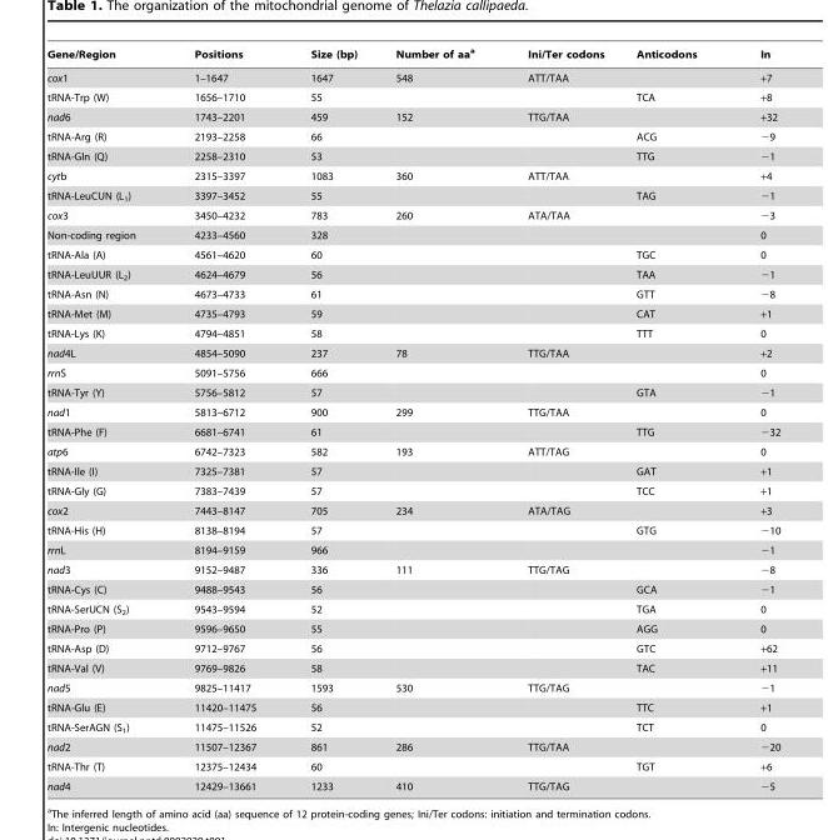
<table><thead><tr><td>Gene/Region</td><td>Positions</td><td>Size (bp)</td><td>Number of aa<sup>a</sup></td><td>Ini/Ter codons</td><td>Anticodons</td><td>In</td></tr></thead><tbody><tr><td>cox1</td><td>1–1647</td><td>1647</td><td>548</td><td>ATT/TAA</td><td></td><td>+7</td></tr><tr><td>tRNA-Trp (W)</td><td>1656–1710</td><td>55</td><td></td><td></td><td>TCA</td><td>+8</td></tr><tr><td>nad6</td><td>1743–2201</td><td>459</td><td>152</td><td>TTG/TAA</td><td></td><td>+32</td></tr><tr><td>tRNA-Arg (R)</td><td>2193–2258</td><td>66</td><td></td><td></td><td>ACG</td><td>−9</td></tr><tr><td>tRNA-Gln (Q)</td><td>2258–2310</td><td>53</td><td></td><td></td><td>TTG</td><td>−1</td></tr><tr><td>cytb</td><td>2315–3397</td><td>1083</td><td>360</td><td>ATT/TAA</td><td></td><td>+4</td></tr><tr><td>tRNA-LeuCUN (L<sub>1</sub>)</td><td>3397–3452</td><td>55</td><td></td><td></td><td>TAG</td><td>−1</td></tr><tr><td>cox3</td><td>3450–4232</td><td>783</td><td>260</td><td>ATA/TAA</td><td></td><td>−3</td></tr><tr><td>Non-coding region</td><td>4233–4560</td><td>328</td><td></td><td></td><td></td><td>0</td></tr><tr><td>tRNA-Ala (A)</td><td>4561–4620</td><td>60</td><td></td><td></td><td>TGC</td><td>0</td></tr><tr><td>tRNA-LeuUUR (L<sub>2</sub>)</td><td>4624–4679</td><td>56</td><td></td><td></td><td>TAA</td><td>−1</td></tr><tr><td>tRNA-Asn (N)</td><td>4673–4733</td><td>61</td><td></td><td></td><td>GTT</td><td>−8</td></tr><tr><td>tRNA-Met (M)</td><td>4735–4793</td><td>59</td><td></td><td></td><td>CAT</td><td>+1</td></tr><tr><td>tRNA-Lys (K)</td><td>4794–4851</td><td>58</td><td></td><td></td><td>TTT</td><td>0</td></tr><tr><td>nad4L</td><td>4854–5090</td><td>237</td><td>78</td><td>TTG/TAA</td><td></td><td>+2</td></tr><tr><td>rrnS</td><td>5091–5756</td><td>666</td><td></td><td></td><td></td><td>0</td></tr><tr><td>tRNA-Tyr (Y)</td><td>5756–5812</td><td>57</td><td></td><td></td><td>GTA</td><td>−1</td></tr><tr><td>nad1</td><td>5813–6712</td><td>900</td><td>299</td><td>TTG/TAA</td><td></td><td>0</td></tr><tr><td>tRNA-Phe (F)</td><td>6681–6741</td><td>61</td><td></td><td></td><td>TTG</td><td>−32</td></tr><tr><td>atp6</td><td>6742–7323</td><td>582</td><td>193</td><td>ATT/TAG</td><td></td><td>0</td></tr><tr><td>tRNA-Ile (I)</td><td>7325–7381</td><td>57</td><td></td><td></td><td>GAT</td><td>+1</td></tr><tr><td>tRNA-Gly (G)</td><td>7383–7439</td><td>57</td><td></td><td></td><td>TCC</td><td>+1</td></tr><tr><td>cox2</td><td>7443–8147</td><td>705</td><td>234</td><td>ATA/TAG</td><td></td><td>+3</td></tr><tr><td>tRNA-His (H)</td><td>8138–8194</td><td>57</td><td></td><td></td><td>GTG</td><td>−10</td></tr><tr><td>rrnL</td><td>8194–9159</td><td>966</td><td></td><td></td><td></td><td>−1</td></tr><tr><td>nad3</td><td>9152–9487</td><td>336</td><td>111</td><td>TTG/TAG</td><td></td><td>−8</td></tr><tr><td>tRNA-Cys (C)</td><td>9488–9543</td><td>56</td><td></td><td></td><td>GCA</td><td>−1</td></tr><tr><td>tRNA-SerUCN (S<sub>2</sub>)</td><td>9543–9594</td><td>52</td><td></td><td></td><td>TGA</td><td>0</td></tr><tr><td>tRNA-Pro (P)</td><td>9596–9650</td><td>55</td><td></td><td></td><td>AGG</td><td>0</td></tr><tr><td>tRNA-Asp (D)</td><td>9712–9767</td><td>56</td><td></td><td></td><td>GTC</td><td>+62</td></tr><tr><td>tRNA-Val (V)</td><td>9769–9826</td><td>58</td><td></td><td></td><td>TAC</td><td>+11</td></tr><tr><td>nad5</td><td>9825–11417</td><td>1593</td><td>530</td><td>TTG/TAG</td><td></td><td>−1</td></tr><tr><td>tRNA-Glu (E)</td><td>11420–11475</td><td>56</td><td></td><td></td><td>TTC</td><td>+1</td></tr><tr><td>tRNA-SerAGN (S<sub>1</sub>)</td><td>11475–11526</td><td>52</td><td></td><td></td><td>TCT</td><td>0</td></tr><tr><td>nad2</td><td>11507–12367</td><td>861</td><td>286</td><td>TTG/TAA</td><td></td><td>−20</td></tr><tr><td>tRNA-Thr (T)</td><td>12375–12434</td><td>60</td><td></td><td></td><td>TGT</td><td>+6</td></tr><tr><td>nad4</td><td>12429–13661</td><td>1233</td><td>410</td><td>TTG/TAG</td><td></td><td>−5</td></tr></tbody></table>